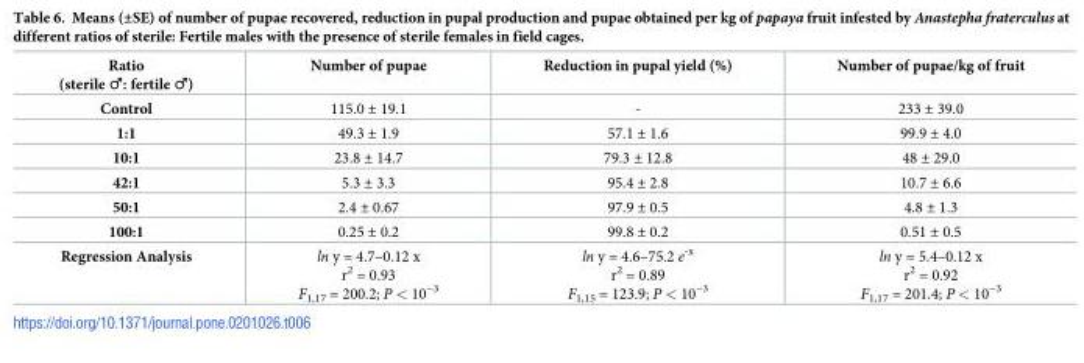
<table><thead><tr><td>Ratio (sterile ♂: fertile ♂)</td><td>Number of pupae</td><td>Reduction in pupal yield (%)</td><td>Number of pupae/kg of fruit</td></tr></thead><tbody><tr><td>Control</td><td>115.0 ± 19.1</td><td>-</td><td>233 ± 39.0</td></tr><tr><td>1:1</td><td>49.3 ± 1.9</td><td>57.1 ± 1.6</td><td>99.9 ± 4.0</td></tr><tr><td>10:1</td><td>23.8 ± 14.7</td><td>79.3 ± 12.8</td><td>48 ± 29.0</td></tr><tr><td>42:1</td><td>5.3 ± 3.3</td><td>95.4 ± 2.8</td><td>10.7 ± 6.6</td></tr><tr><td>50:1</td><td>2.4 ± 0.67</td><td>97.9 ± 0.5</td><td>4.8 ± 1.3</td></tr><tr><td>100:1</td><td>0.25 ± 0.2</td><td>99.8 ± 0.2</td><td>0.51 ± 0.5</td></tr><tr><td>Regression Analysis</td><td>ln y = 4.7–0.12 x r<sup>2</sup> = 0.93 F<sub>1,17</sub> = 200.2; P &lt; 10<sup>−3</sup></td><td>ln y = 4.6–75.2 e<sup>-x</sup> r<sup>2</sup> = 0.89 F<sub>1,15</sub> = 123.9; P &lt; 10<sup>−3</sup></td><td>ln y = 5.4–0.12 x r<sup>2</sup> = 0.92 F<sub>1,17</sub> = 201.4; P &lt; 10<sup>−3</sup></td></tr></tbody></table>